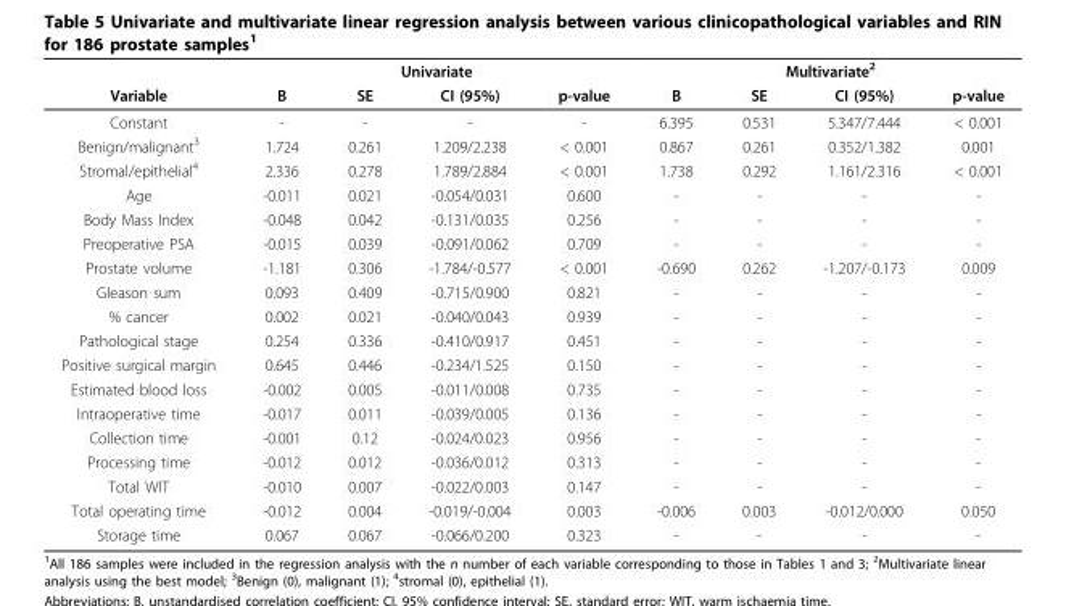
<table><thead><tr><td rowspan="2">Variable</td><td colspan="4">Univariate</td><td colspan="4">Multivariate<sup>2</sup></td></tr><tr><td>B</td><td>SE</td><td>CI (95%)</td><td>p-value</td><td>B</td><td>SE</td><td>CI (95%)</td><td>p-value</td></tr></thead><tbody><tr><td>Constant</td><td>-</td><td>-</td><td>-</td><td>-</td><td>6.395</td><td>0.531</td><td>5.347/7.444</td><td>&lt; 0.001</td></tr><tr><td>Benign/malignant<sup>3</sup></td><td>1.724</td><td>0.261</td><td>1.209/2.238</td><td>&lt; 0.001</td><td>0.867</td><td>0.261</td><td>0.352/1.382</td><td>0.001</td></tr><tr><td>Stromal/epithelial<sup>4</sup></td><td>2.336</td><td>0.278</td><td>1.789/2.884</td><td>&lt; 0.001</td><td>1.738</td><td>0.292</td><td>1.161/2.316</td><td>&lt; 0.001</td></tr><tr><td>Age</td><td>-0.011</td><td>0.021</td><td>-0.054/0.031</td><td>0.600</td><td>-</td><td>-</td><td>-</td><td>-</td></tr><tr><td>Body Mass Index</td><td>-0.048</td><td>0.042</td><td>-0.131/0.035</td><td>0.256</td><td>-</td><td>-</td><td>-</td><td>-</td></tr><tr><td>Preoperative PSA</td><td>-0.015</td><td>0.039</td><td>-0.091/0.062</td><td>0.709</td><td>-</td><td>-</td><td>-</td><td>-</td></tr><tr><td>Prostate volume</td><td>-1.181</td><td>0.306</td><td>-1.784/-0.577</td><td>&lt; 0.001</td><td>-0.690</td><td>0.262</td><td>-1.207/-0.173</td><td>0.009</td></tr><tr><td>Gleason sum</td><td>0.093</td><td>0.409</td><td>-0.715/0.900</td><td>0.821</td><td>-</td><td>-</td><td>-</td><td>-</td></tr><tr><td>% cancer</td><td>0.002</td><td>0.021</td><td>-0.040/0.043</td><td>0.939</td><td>-</td><td>-</td><td>-</td><td>-</td></tr><tr><td>Pathological stage</td><td>0.254</td><td>0.336</td><td>-0.410/0.917</td><td>0.451</td><td>-</td><td>-</td><td>-</td><td>-</td></tr><tr><td>Positive surgical margin</td><td>0.645</td><td>0.446</td><td>-0.234/1.525</td><td>0.150</td><td>-</td><td>-</td><td>-</td><td>-</td></tr><tr><td>Estimated blood loss</td><td>-0.002</td><td>0.005</td><td>-0.011/0.008</td><td>0.735</td><td>-</td><td>-</td><td>-</td><td>-</td></tr><tr><td>Intraoperative time</td><td>-0.017</td><td>0.011</td><td>-0.039/0.005</td><td>0.136</td><td>-</td><td>-</td><td>-</td><td>-</td></tr><tr><td>Collection time</td><td>-0.001</td><td>0.12</td><td>-0.024/0.023</td><td>0.956</td><td>-</td><td>-</td><td>-</td><td>-</td></tr><tr><td>Processing time</td><td>-0.012</td><td>0.012</td><td>-0.036/0.012</td><td>0.313</td><td>-</td><td>-</td><td>-</td><td>-</td></tr><tr><td>Total WIT</td><td>-0.010</td><td>0.007</td><td>-0.022/0.003</td><td>0.147</td><td>-</td><td>-</td><td>-</td><td>-</td></tr><tr><td>Total operating time</td><td>-0.012</td><td>0.004</td><td>-0.019/-0.004</td><td>0.003</td><td>-0.006</td><td>0.003</td><td>-0.012/0.000</td><td>0.050</td></tr><tr><td>Storage time</td><td>0.067</td><td>0.067</td><td>-0.066/0.200</td><td>0.323</td><td>-</td><td>-</td><td>-</td><td>-</td></tr></tbody></table>